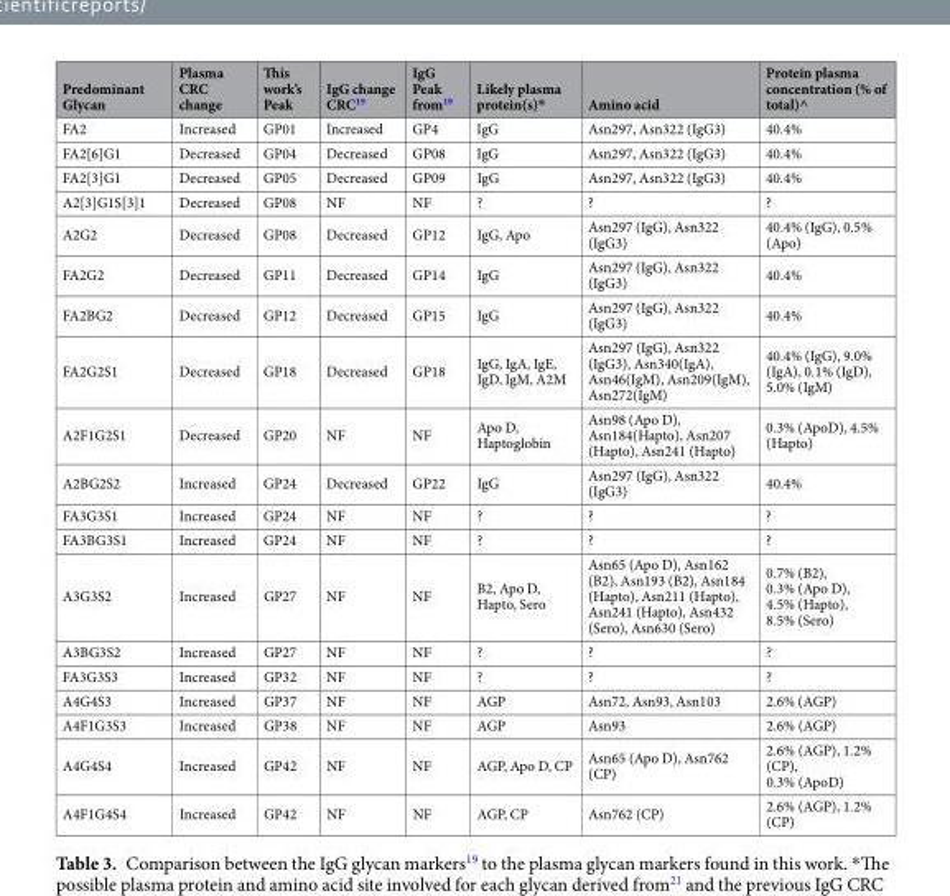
<table><thead><tr><td>Predominant Glycan</td><td>Plasma CRC change</td><td>This work’s Peak</td><td>IgG change CRC<sup>19</sup></td><td>IgG Peak from<sup>19</sup></td><td>Likely plasma protein(s)*</td><td>Amino acid</td><td>Protein plasma concentration (% of total)^</td></tr></thead><tbody><tr><td>FA2</td><td>Increased</td><td>GP01</td><td>Increased</td><td>GP4</td><td>IgG</td><td>Asn297, Asn322 (IgG3)</td><td>40.4%</td></tr><tr><td>FA2[6]G1</td><td>Decreased</td><td>GP04</td><td>Decreased</td><td>GP08</td><td>IgG</td><td>Asn297, Asn322 (IgG3)</td><td>40.4%</td></tr><tr><td>FA2[3]G1</td><td>Decreased</td><td>GP05</td><td>Decreased</td><td>GP09</td><td>IgG</td><td>Asn297, Asn322 (IgG3)</td><td>40.4%</td></tr><tr><td>A2[3]G1S[3]1</td><td>Decreased</td><td>GP08</td><td>NF</td><td>NF</td><td>?</td><td>?</td><td>?</td></tr><tr><td>A2G2</td><td>Decreased</td><td>GP08</td><td>Decreased</td><td>GP12</td><td>IgG, Apo</td><td>Asn297 (IgG), Asn322 (IgG3)</td><td>40.4% (IgG), 0.5% (Apo)</td></tr><tr><td>FA2G2</td><td>Decreased</td><td>GP11</td><td>Decreased</td><td>GP14</td><td>IgG</td><td>Asn297 (IgG), Asn322 (IgG3)</td><td>40.4%</td></tr><tr><td>FA2BG2</td><td>Decreased</td><td>GP12</td><td>Decreased</td><td>GP15</td><td>IgG</td><td>Asn297 (IgG), Asn322 (IgG3)</td><td>40.4%</td></tr><tr><td>FA2G2S1</td><td>Decreased</td><td>GP18</td><td>Decreased</td><td>GP18</td><td>IgG, IgA, IgE, IgD, IgM, A2M</td><td>Asn297 (IgG), Asn322 (IgG3), Asn340(IgA), Asn46(IgM), Asn209(IgM), Asn272(IgM)</td><td>40.4% (IgG), 9.0% (IgA), 0.1% (IgD), 5.0% (IgM)</td></tr><tr><td>A2F1G2S1</td><td>Decreased</td><td>GP20</td><td>NF</td><td>NF</td><td>Apo D, Haptoglobin</td><td>Asn98 (Apo D), Asn184(Hapto), Asn207 (Hapto), Asn241 (Hapto)</td><td>0.3% (ApoD), 4.5% (Hapto)</td></tr><tr><td>A2BG2S2</td><td>Increased</td><td>GP24</td><td>Decreased</td><td>GP22</td><td>IgG</td><td>Asn297 (IgG), Asn322 (IgG3)</td><td>40.4%</td></tr><tr><td>FA3G3S1</td><td>Increased</td><td>GP24</td><td>NF</td><td>NF</td><td>?</td><td>?</td><td>?</td></tr><tr><td>FA3BG3S1</td><td>Increased</td><td>GP24</td><td>NF</td><td>NF</td><td>?</td><td>?</td><td>?</td></tr><tr><td>A3G3S2</td><td>Increased</td><td>GP27</td><td>NF</td><td>NF</td><td>B2, Apo D, Hapto, Sero</td><td>Asn65 (Apo D), Asn162 (B2), Asn193 (B2), Asn184 (Hapto), Asn211 (Hapto), Asn241 (Hapto), Asn432 (Sero), Asn630 (Sero)</td><td>0.7% (B2), 0.3% (Apo D), 4.5% (Hapto), 8.5% (Sero)</td></tr><tr><td>A3BG3S2</td><td>Increased</td><td>GP27</td><td>NF</td><td>NF</td><td>?</td><td>?</td><td>?</td></tr><tr><td>FA3G3S3</td><td>Increased</td><td>GP32</td><td>NF</td><td>NF</td><td>?</td><td>?</td><td>?</td></tr><tr><td>A4G4S3</td><td>Increased</td><td>GP37</td><td>NF</td><td>NF</td><td>AGP</td><td>Asn72, Asn93, Asn103</td><td>2.6% (AGP)</td></tr><tr><td>A4F1G3S3</td><td>Increased</td><td>GP38</td><td>NF</td><td>NF</td><td>AGP</td><td>Asn93</td><td>2.6% (AGP)</td></tr><tr><td>A4G4S4</td><td>Increased</td><td>GP42</td><td>NF</td><td>NF</td><td>AGP, Apo D, CP</td><td>Asn65 (Apo D), Asn762 (CP)</td><td>2.6% (AGP), 1.2% (CP), 0.3% (ApoD)</td></tr><tr><td>A4F1G4S4</td><td>Increased</td><td>GP42</td><td>NF</td><td>NF</td><td>AGP, CP</td><td>Asn762 (CP)</td><td>2.6% (AGP), 1.2% (CP)</td></tr></tbody></table>